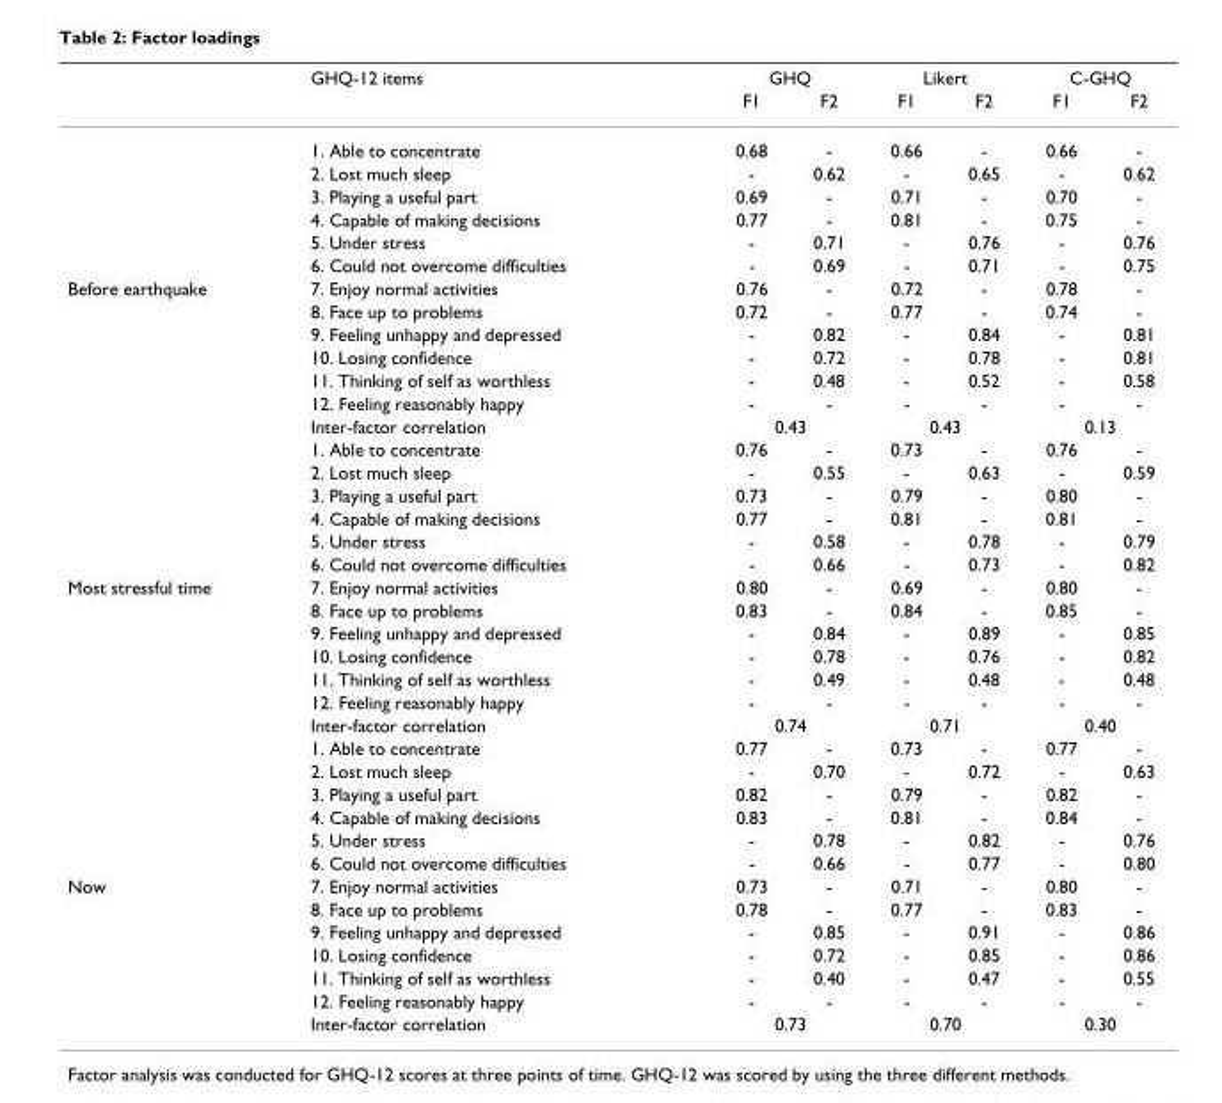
<table><thead><tr><td rowspan="2"></td><td rowspan="2">GHQ-12 items</td><td colspan="2">GHQ</td><td colspan="2">Likert</td><td colspan="2">C-GHQ</td></tr><tr><td>F1</td><td>F2</td><td>F1</td><td>F2</td><td>F1</td><td>F2</td></tr></thead><tbody><tr><td></td><td>1. Able to concentrate</td><td>0.68</td><td>-</td><td>0.66</td><td>-</td><td>0.66</td><td>-</td></tr><tr><td></td><td>2. Lost much sleep</td><td>-</td><td>0.62</td><td>-</td><td>0.65</td><td>-</td><td>0.62</td></tr><tr><td></td><td>3. Playing a useful part</td><td>0.69</td><td>-</td><td>0.71</td><td>-</td><td>0.70</td><td>-</td></tr><tr><td></td><td>4. Capable of making decisions</td><td>0.77</td><td>-</td><td>0.81</td><td>-</td><td>0.75</td><td>-</td></tr><tr><td></td><td>5. Under stress</td><td>-</td><td>0.71</td><td>-</td><td>0.76</td><td>-</td><td>0.76</td></tr><tr><td></td><td>6. Could not overcome difficulties</td><td>-</td><td>0.69</td><td>-</td><td>0.71</td><td>-</td><td>0.75</td></tr><tr><td rowspan="13">Before earthquake</td><td>7. Enjoy normal activities</td><td>0.76</td><td>-</td><td>0.72</td><td>-</td><td>0.78</td><td>-</td></tr><tr><td>8. Face up to problems</td><td>0.72</td><td>-</td><td>0.77</td><td>-</td><td>0.74</td><td>-</td></tr><tr><td>9. Feeling unhappy and depressed</td><td>-</td><td>0.82</td><td>-</td><td>0.84</td><td>-</td><td>0.81</td></tr><tr><td>10. Losing confidence</td><td>-</td><td>0.72</td><td>-</td><td>0.78</td><td>-</td><td>0.81</td></tr><tr><td>11. Thinking of self as worthless</td><td>-</td><td>0.48</td><td>-</td><td>0.52</td><td>-</td><td>0.58</td></tr><tr><td>12. Feeling reasonably happy</td><td>-</td><td>-</td><td>-</td><td>-</td><td>-</td><td>-</td></tr><tr><td>Inter-factor correlation</td><td colspan="2">0.43</td><td colspan="2">0.43</td><td colspan="2">0.13</td></tr><tr><td>1. Able to concentrate</td><td>0.76</td><td>-</td><td>0.73</td><td>-</td><td>0.76</td><td>-</td></tr><tr><td>2. Lost much sleep</td><td>-</td><td>0.55</td><td>-</td><td>0.63</td><td>-</td><td>0.59</td></tr><tr><td>3. Playing a useful part</td><td>0.73</td><td>-</td><td>0.79</td><td>-</td><td>0.80</td><td>-</td></tr><tr><td>4. Capable of making decisions</td><td>0.77</td><td>-</td><td>0.81</td><td>-</td><td>0.81</td><td>-</td></tr><tr><td>5. Under stress</td><td>-</td><td>0.58</td><td>-</td><td>0.78</td><td>-</td><td>0.79</td></tr><tr><td>6. Could not overcome difficulties</td><td>-</td><td>0.66</td><td>-</td><td>0.73</td><td>-</td><td>0.82</td></tr><tr><td rowspan="13">Most stressful time</td><td>7. Enjoy normal activities</td><td>0.80</td><td>-</td><td>0.69</td><td>-</td><td>0.80</td><td>-</td></tr><tr><td>8. Face up to problems</td><td>0.83</td><td>-</td><td>0.84</td><td>-</td><td>0.85</td><td>-</td></tr><tr><td>9. Feeling unhappy and depressed</td><td>-</td><td>0.84</td><td>-</td><td>0.89</td><td>-</td><td>0.85</td></tr><tr><td>10. Losing confidence</td><td>-</td><td>0.78</td><td>-</td><td>0.76</td><td>-</td><td>0.82</td></tr><tr><td>11. Thinking of self as worthless</td><td>-</td><td>0.49</td><td>-</td><td>0.48</td><td>-</td><td>0.48</td></tr><tr><td>12. Feeling reasonably happy</td><td>-</td><td>-</td><td>-</td><td>-</td><td>-</td><td>-</td></tr><tr><td>Inter-factor correlation</td><td colspan="2">0.74</td><td colspan="2">0.71</td><td colspan="2">0.40</td></tr><tr><td>1. Able to concentrate</td><td>0.77</td><td>-</td><td>0.73</td><td>-</td><td>0.77</td><td>-</td></tr><tr><td>2. Lost much sleep</td><td>-</td><td>0.70</td><td>-</td><td>0.72</td><td>-</td><td>0.63</td></tr><tr><td>3. Playing a useful part</td><td>0.82</td><td>-</td><td>0.79</td><td>-</td><td>0.82</td><td>-</td></tr><tr><td>4. Capable of making decisions</td><td>0.83</td><td>-</td><td>0.81</td><td>-</td><td>0.84</td><td>-</td></tr><tr><td>5. Under stress</td><td>-</td><td>0.78</td><td>-</td><td>0.82</td><td>-</td><td>0.76</td></tr><tr><td>6. Could not overcome difficulties</td><td>-</td><td>0.66</td><td>-</td><td>0.77</td><td>-</td><td>0.80</td></tr><tr><td rowspan="7">Now</td><td>7. Enjoy normal activities</td><td>0.73</td><td>-</td><td>0.71</td><td>-</td><td>0.80</td><td>-</td></tr><tr><td>8. Face up to problems</td><td>0.78</td><td>-</td><td>0.77</td><td>-</td><td>0.83</td><td>-</td></tr><tr><td>9. Feeling unhappy and depressed</td><td>-</td><td>0.85</td><td>-</td><td>0.91</td><td>-</td><td>0.86</td></tr><tr><td>10. Losing confidence</td><td>-</td><td>0.72</td><td>-</td><td>0.85</td><td>-</td><td>0.86</td></tr><tr><td>11. Thinking of self as worthless</td><td>-</td><td>0.40</td><td>-</td><td>0.47</td><td>-</td><td>0.55</td></tr><tr><td>12. Feeling reasonably happy</td><td>-</td><td>-</td><td>-</td><td>-</td><td>-</td><td>-</td></tr><tr><td>Inter-factor correlation</td><td colspan="2">0.73</td><td colspan="2">0.70</td><td colspan="2">0.30</td></tr></tbody></table>